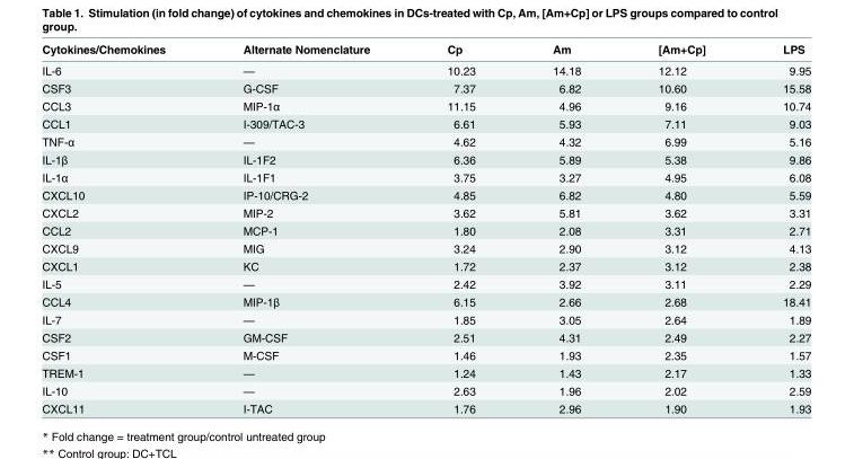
<table><thead><tr><td>Cytokines/Chemokines</td><td>Alternate Nomenclature</td><td>Cp</td><td>Am</td><td>[Am+Cp]</td><td>LPS</td></tr></thead><tbody><tr><td>IL-6</td><td>—</td><td>10.23</td><td>14.18</td><td>12.12</td><td>9.95</td></tr><tr><td>CSF3</td><td>G-CSF</td><td>7.37</td><td>6.82</td><td>10.60</td><td>15.58</td></tr><tr><td>CCL3</td><td>MIP-1α</td><td>11.15</td><td>4.96</td><td>9.16</td><td>10.74</td></tr><tr><td>CCL1</td><td>I-309/TAC-3</td><td>6.61</td><td>5.93</td><td>7.11</td><td>9.03</td></tr><tr><td>TNF-α</td><td>—</td><td>4.62</td><td>4.32</td><td>6.99</td><td>5.16</td></tr><tr><td>IL-1β</td><td>IL-1F2</td><td>6.36</td><td>5.89</td><td>5.38</td><td>9.86</td></tr><tr><td>IL-1α</td><td>IL-1F1</td><td>3.75</td><td>3.27</td><td>4.95</td><td>6.08</td></tr><tr><td>CXCL10</td><td>IP-10/CRG-2</td><td>4.85</td><td>6.82</td><td>4.80</td><td>5.59</td></tr><tr><td>CXCL2</td><td>MIP-2</td><td>3.62</td><td>5.81</td><td>3.62</td><td>3.31</td></tr><tr><td>CCL2</td><td>MCP-1</td><td>1.80</td><td>2.08</td><td>3.31</td><td>2.71</td></tr><tr><td>CXCL9</td><td>MIG</td><td>3.24</td><td>2.90</td><td>3.12</td><td>4.13</td></tr><tr><td>CXCL1</td><td>KC</td><td>1.72</td><td>2.37</td><td>3.12</td><td>2.38</td></tr><tr><td>IL-5</td><td>—</td><td>2.42</td><td>3.92</td><td>3.11</td><td>2.29</td></tr><tr><td>CCL4</td><td>MIP-1β</td><td>6.15</td><td>2.66</td><td>2.68</td><td>18.41</td></tr><tr><td>IL-7</td><td>—</td><td>1.85</td><td>3.05</td><td>2.64</td><td>1.89</td></tr><tr><td>CSF2</td><td>GM-CSF</td><td>2.51</td><td>4.31</td><td>2.49</td><td>2.27</td></tr><tr><td>CSF1</td><td>M-CSF</td><td>1.46</td><td>1.93</td><td>2.35</td><td>1.57</td></tr><tr><td>TREM-1</td><td>—</td><td>1.24</td><td>1.43</td><td>2.17</td><td>1.33</td></tr><tr><td>IL-10</td><td>—</td><td>2.63</td><td>1.96</td><td>2.02</td><td>2.59</td></tr><tr><td>CXCL11</td><td>I-TAC</td><td>1.76</td><td>2.96</td><td>1.90</td><td>1.93</td></tr></tbody></table>